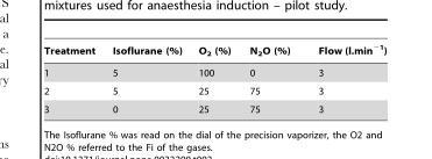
<table><thead><tr><td>Treatment</td><td>Isoflurane (%)</td><td>O<sub>2</sub> (%)</td><td>N<sub>2</sub>O (%)</td><td>Flow (l.min<sup>−1</sup>)</td></tr></thead><tbody><tr><td>1</td><td>5</td><td>100</td><td>0</td><td>3</td></tr><tr><td>2</td><td>5</td><td>25</td><td>75</td><td>3</td></tr><tr><td>3</td><td>0</td><td>25</td><td>75</td><td>3</td></tr></tbody></table>